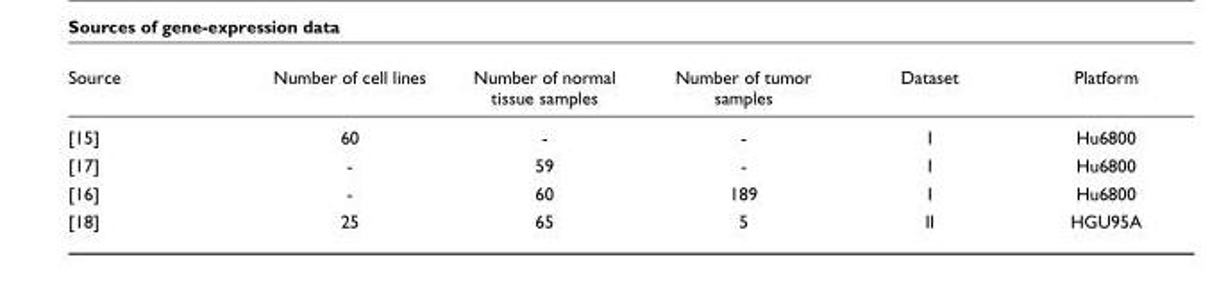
<table><thead><tr><td>Source</td><td>Number of cell lines</td><td>Number of normal tissue samples</td><td>Number of tumor samples</td><td>Dataset</td><td>Platform</td></tr></thead><tbody><tr><td>[15]</td><td>60</td><td>-</td><td>-</td><td>I</td><td>Hu6800</td></tr><tr><td>[17]</td><td>-</td><td>59</td><td>-</td><td>I</td><td>Hu6800</td></tr><tr><td>[16]</td><td>-</td><td>60</td><td>189</td><td>I</td><td>Hu6800</td></tr><tr><td>[18]</td><td>25</td><td>65</td><td>5</td><td>II</td><td>HGU95A</td></tr></tbody></table>